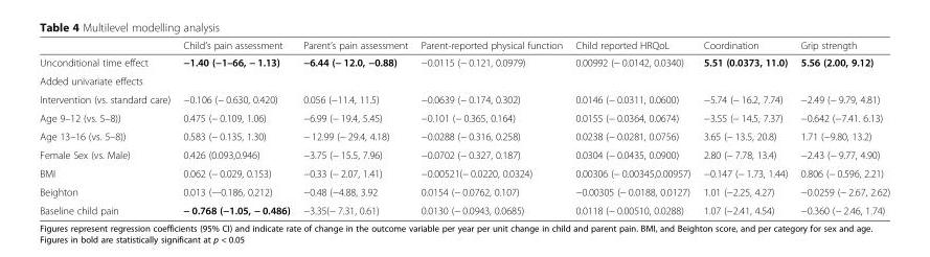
<table><thead><tr><td></td><td>Child’s pain assessment</td><td>Parent’s pain assessment</td><td>Parent-reported physical function</td><td>Child reported HRQoL</td><td>Coordination</td><td>Grip strength</td></tr></thead><tbody><tr><td>Unconditional time effect</td><td>−1.40 (−1–66, − 1.13)</td><td>−6.44 (− 12.0, −0.88)</td><td>−0.0115 (− 0.121, 0.0979)</td><td>0.00992 (− 0.0142, 0.0340)</td><td>5.51 (0.0373, 11.0)</td><td>5.56 (2.00, 9.12)</td></tr><tr><td colspan="7">Added univariate effects</td></tr><tr><td>Intervention (vs. standard care)</td><td>−0.106 (− 0.630, 0.420)</td><td>0.056 (−11.4, 11.5)</td><td>−0.0639 (− 0.174, 0.302)</td><td>0.0146 (− 0.0311, 0.0600)</td><td>−5.74 (− 16.2, 7.74)</td><td>−2.49 (− 9.79, 4.81)</td></tr><tr><td>Age 9–12 (vs. 5–8))</td><td>0.475 (− 0.109, 1.06)</td><td>−6.99 (− 19.4, 5.45)</td><td>−0.101 (− 0.365, 0.164)</td><td>0.0155 (− 0.0364, 0.0674)</td><td>−3.55 (− 14.5, 7.37)</td><td>−0.642 (−7.41. 6.13)</td></tr><tr><td>Age 13–16 (vs. 5–8))</td><td>0.583 (− 0.135, 1.30)</td><td>− 12.99 (− 29.4, 4.18)</td><td>−0.0288 (− 0.316, 0.258)</td><td>0.0238 (− 0.0281, 0.0756)</td><td>3.65 (− 13.5, 20.8)</td><td>1.71 (−9.80, 13.2)</td></tr><tr><td>Female Sex (vs. Male)</td><td>0.426 (0.093,0.946)</td><td>−3.75 (− 15.5, 7.96)</td><td>−0.0702 (− 0.327, 0.187)</td><td>0.0304 (− 0.0435, 0.0900)</td><td>2.80 (− 7.78, 13.4)</td><td>−2.43 (− 9.77, 4.90)</td></tr><tr><td>BMI</td><td>0.062 (− 0.029, 0.153)</td><td>−0.33 (− 2.07, 1.41)</td><td>−0.00521(− 0.0220, 0.0324)</td><td>0.00306 (− 0.00345,0.00957)</td><td>−0.147 (− 1.73, 1.44)</td><td>0.806 (− 0.596, 2.21)</td></tr><tr><td>Beighton</td><td>0.013 (−-0.186, 0.212)</td><td>−0.48 (−4.88, 3.92</td><td>0.0154 (− 0.0762, 0.107)</td><td>−0.00305 (− 0.0188, 0.0127)</td><td>1.01 (−2.25, 4.27)</td><td>−0.0259 (− 2.67, 2.62)</td></tr><tr><td>Baseline child pain</td><td>− 0.768 (−1.05, − 0.486)</td><td>−3.35(− 7.31, 0.61)</td><td>0.0130 (− 0.0943, 0.0685)</td><td>0.0118 (− 0.00510, 0.0288)</td><td>1.07 (−2.41, 4.54)</td><td>−0.360 (− 2.46, 1.74)</td></tr></tbody></table>